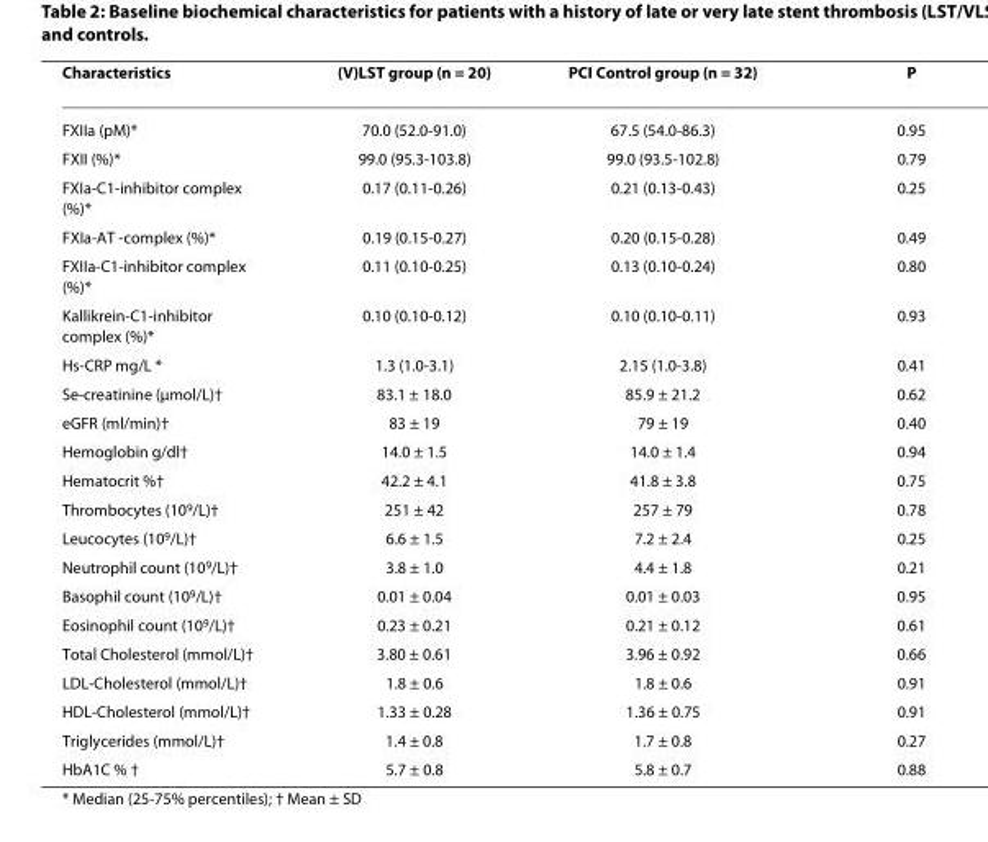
<table><thead><tr><td>Characteristics</td><td>(V)LST group (n = 20)</td><td>PCI Control group (n = 32)</td><td>P</td></tr></thead><tbody><tr><td>FXIIa (pM)*</td><td>70.0 (52.0-91.0)</td><td>67.5 (54.0-86.3)</td><td>0.95</td></tr><tr><td>FXII (%)*</td><td>99.0 (95.3-103.8)</td><td>99.0 (93.5-102.8)</td><td>0.79</td></tr><tr><td>FXIa-C1-inhibitor complex (%)*</td><td>0.17 (0.11-0.26)</td><td>0.21 (0.13-0.43)</td><td>0.25</td></tr><tr><td>FXIa-AT -complex (%)*</td><td>0.19 (0.15-0.27)</td><td>0.20 (0.15-0.28)</td><td>0.49</td></tr><tr><td>FXIIa-C1-inhibitor complex (%)*</td><td>0.11 (0.10-0.25)</td><td>0.13 (0.10-0.24)</td><td>0.80</td></tr><tr><td>Kallikrein-C1-inhibitor complex (%)*</td><td>0.10 (0.10-0.12)</td><td>0.10 (0.10-0.11)</td><td>0.93</td></tr><tr><td>Hs-CRP mg/L *</td><td>1.3 (1.0-3.1)</td><td>2.15 (1.0-3.8)</td><td>0.41</td></tr><tr><td>Se-creatinine (μmol/L)†</td><td>83.1 ± 18.0</td><td>85.9 ± 21.2</td><td>0.62</td></tr><tr><td>eGFR (ml/min)†</td><td>83 ± 19</td><td>79 ± 19</td><td>0.40</td></tr><tr><td>Hemoglobin g/dl†</td><td>14.0 ± 1.5</td><td>14.0 ± 1.4</td><td>0.94</td></tr><tr><td>Hematocrit %†</td><td>42.2 ± 4.1</td><td>41.8 ± 3.8</td><td>0.75</td></tr><tr><td>Thrombocytes (10<sup>9</sup>/L)†</td><td>251 ± 42</td><td>257 ± 79</td><td>0.78</td></tr><tr><td>Leucocytes (10<sup>9</sup>/L)†</td><td>6.6 ± 1.5</td><td>7.2 ± 2.4</td><td>0.25</td></tr><tr><td>Neutrophil count (10<sup>9</sup>/L)†</td><td>3.8 ± 1.0</td><td>4.4 ± 1.8</td><td>0.21</td></tr><tr><td>Basophil count (10<sup>9</sup>/L)†</td><td>0.01 ± 0.04</td><td>0.01 ± 0.03</td><td>0.95</td></tr><tr><td>Eosinophil count (10<sup>9</sup>/L)†</td><td>0.23 ± 0.21</td><td>0.21 ± 0.12</td><td>0.61</td></tr><tr><td>Total Cholesterol (mmol/L)†</td><td>3.80 ± 0.61</td><td>3.96 ± 0.92</td><td>0.66</td></tr><tr><td>LDL-Cholesterol (mmol/L)†</td><td>1.8 ± 0.6</td><td>1.8 ± 0.6</td><td>0.91</td></tr><tr><td>HDL-Cholesterol (mmol/L)†</td><td>1.33 ± 0.28</td><td>1.36 ± 0.75</td><td>0.91</td></tr><tr><td>Triglycerides (mmol/L)†</td><td>1.4 ± 0.8</td><td>1.7 ± 0.8</td><td>0.27</td></tr><tr><td>HbA1C % †</td><td>5.7 ± 0.8</td><td>5.8 ± 0.7</td><td>0.88</td></tr></tbody></table>